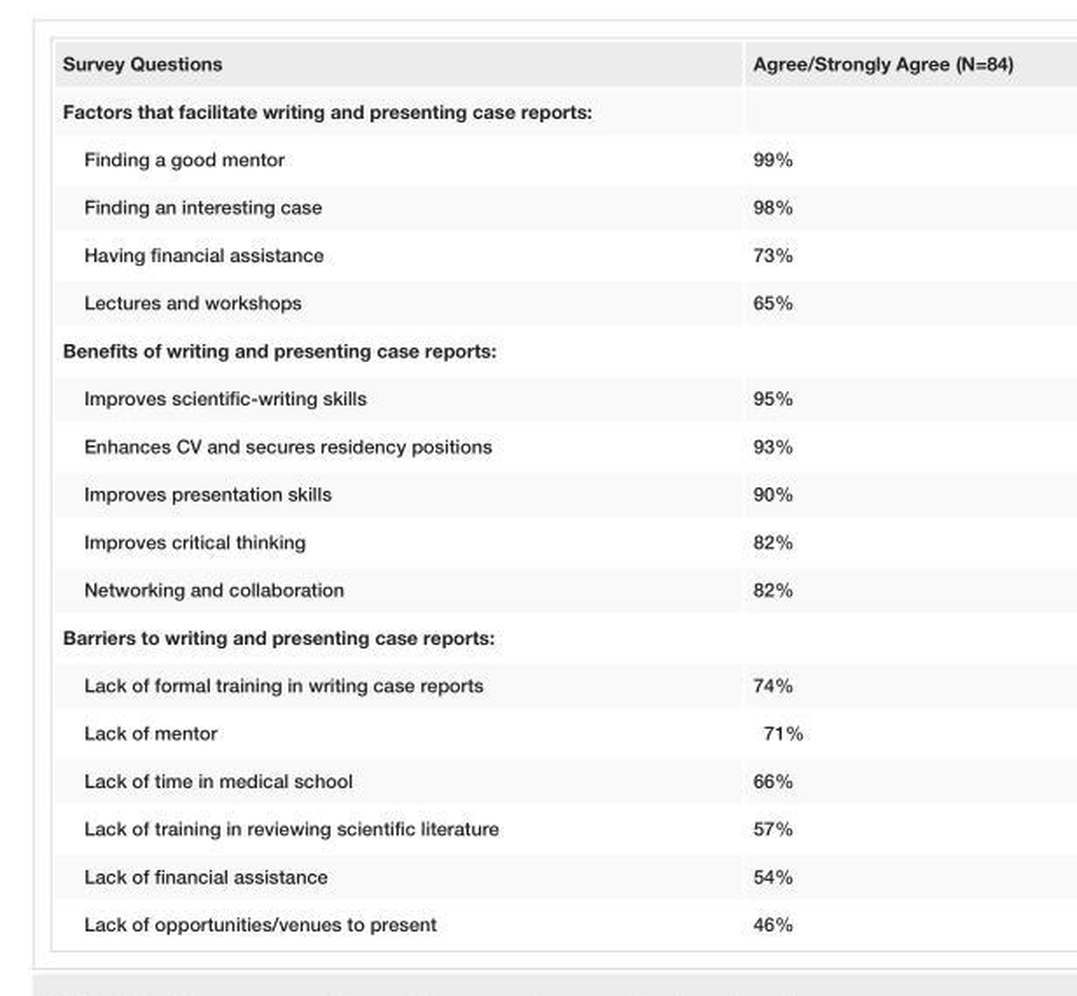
<table><tbody><tr><td>Survey Questions</td><td>Agree/Strongly Agree (N=84)</td></tr><tr><td colspan="2">Factors that facilitate writing and presenting case reports:</td></tr><tr><td>Finding a good mentor</td><td>99%</td></tr><tr><td>Finding an interesting case</td><td>98%</td></tr><tr><td>Having financial assistance</td><td>73%</td></tr><tr><td>Lectures and workshops</td><td>65%</td></tr><tr><td colspan="2">Benefits of writing and presenting case reports:</td></tr><tr><td>Improves scientific-writing skills</td><td>95%</td></tr><tr><td>Enhances CV and secures residency positions</td><td>93%</td></tr><tr><td>Improves presentation skills</td><td>90%</td></tr><tr><td>Improves critical thinking</td><td>82%</td></tr><tr><td>Networking and collaboration</td><td>82%</td></tr><tr><td colspan="2">Barriers to writing and presenting case reports:</td></tr><tr><td>Lack of formal training in writing case reports</td><td>74%</td></tr><tr><td>Lack of mentor</td><td>71%</td></tr><tr><td>Lack of time in medical school</td><td>66%</td></tr><tr><td>Lack of training in reviewing scientific literature</td><td>57%</td></tr><tr><td>Lack of financial assistance</td><td>54%</td></tr><tr><td>Lack of opportunities/venues to present</td><td>46%</td></tr></tbody></table>